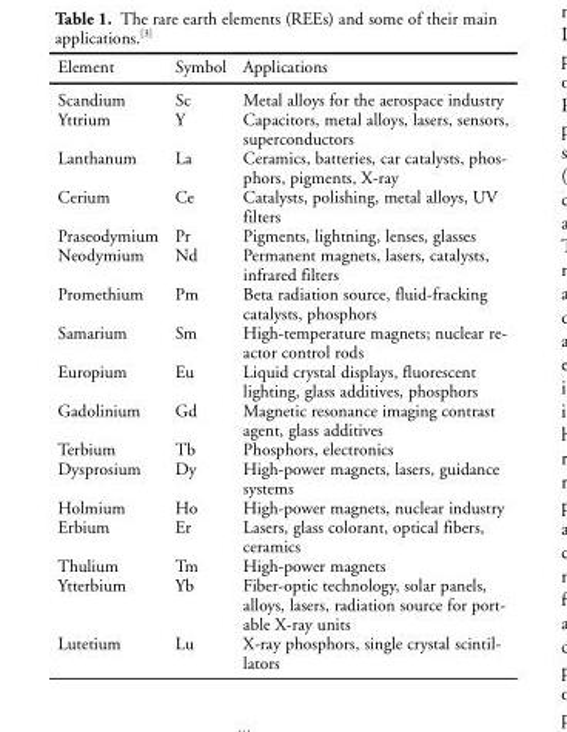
<table><thead><tr><td>Element</td><td>Symbol</td><td>Applications</td></tr></thead><tbody><tr><td>Scandium</td><td>Sc</td><td>Metal alloys for the aerospace industry</td></tr><tr><td>Yttrium</td><td>Y</td><td>Capacitors, metal alloys, lasers, sensors, superconductors</td></tr><tr><td>Lanthanum</td><td>La</td><td>Ceramics, batteries, car catalysts, phos- phors, pigments, X-ray</td></tr><tr><td>Cerium</td><td>Ce</td><td>Catalysts, polishing, metal alloys, UV filters</td></tr><tr><td>Praseodymium</td><td>Pr</td><td>Pigments, lightning, lenses, glasses</td></tr><tr><td>Neodymium</td><td>Nd</td><td>Permanent magnets, lasers, catalysts, infrared filters</td></tr><tr><td>Promethium</td><td>Pm</td><td>Beta radiation source, fluid-fracking catalysts, phosphors</td></tr><tr><td>Samarium</td><td>Sm</td><td>High-temperature magnets; nuclear re- actor control rods</td></tr><tr><td>Europium</td><td>Eu</td><td>Liquid crystal displays, fluorescent lighting, glass additives, phosphors</td></tr><tr><td>Gadolinium</td><td>Gd</td><td>Magnetic resonance imaging contrast agent, glass additives</td></tr><tr><td>Terbium</td><td>Tb</td><td>Phosphors, electronics</td></tr><tr><td>Dysprosium</td><td>Dy</td><td>High-power magnets, lasers, guidance systems</td></tr><tr><td>Holmium</td><td>Ho</td><td>High-power magnets, nuclear industry</td></tr><tr><td>Erbium</td><td>Er</td><td>Lasers, glass colorant, optical fibers, ceramics</td></tr><tr><td>Thulium</td><td>Tm</td><td>High-power magnets</td></tr><tr><td>Ytterbium</td><td>Yb</td><td>Fiber-optic technology, solar panels, alloys, lasers, radiation source for port- able X-ray units</td></tr><tr><td>Lutetium</td><td>Lu</td><td>X-ray phosphors, single crystal scintil- lators</td></tr></tbody></table>